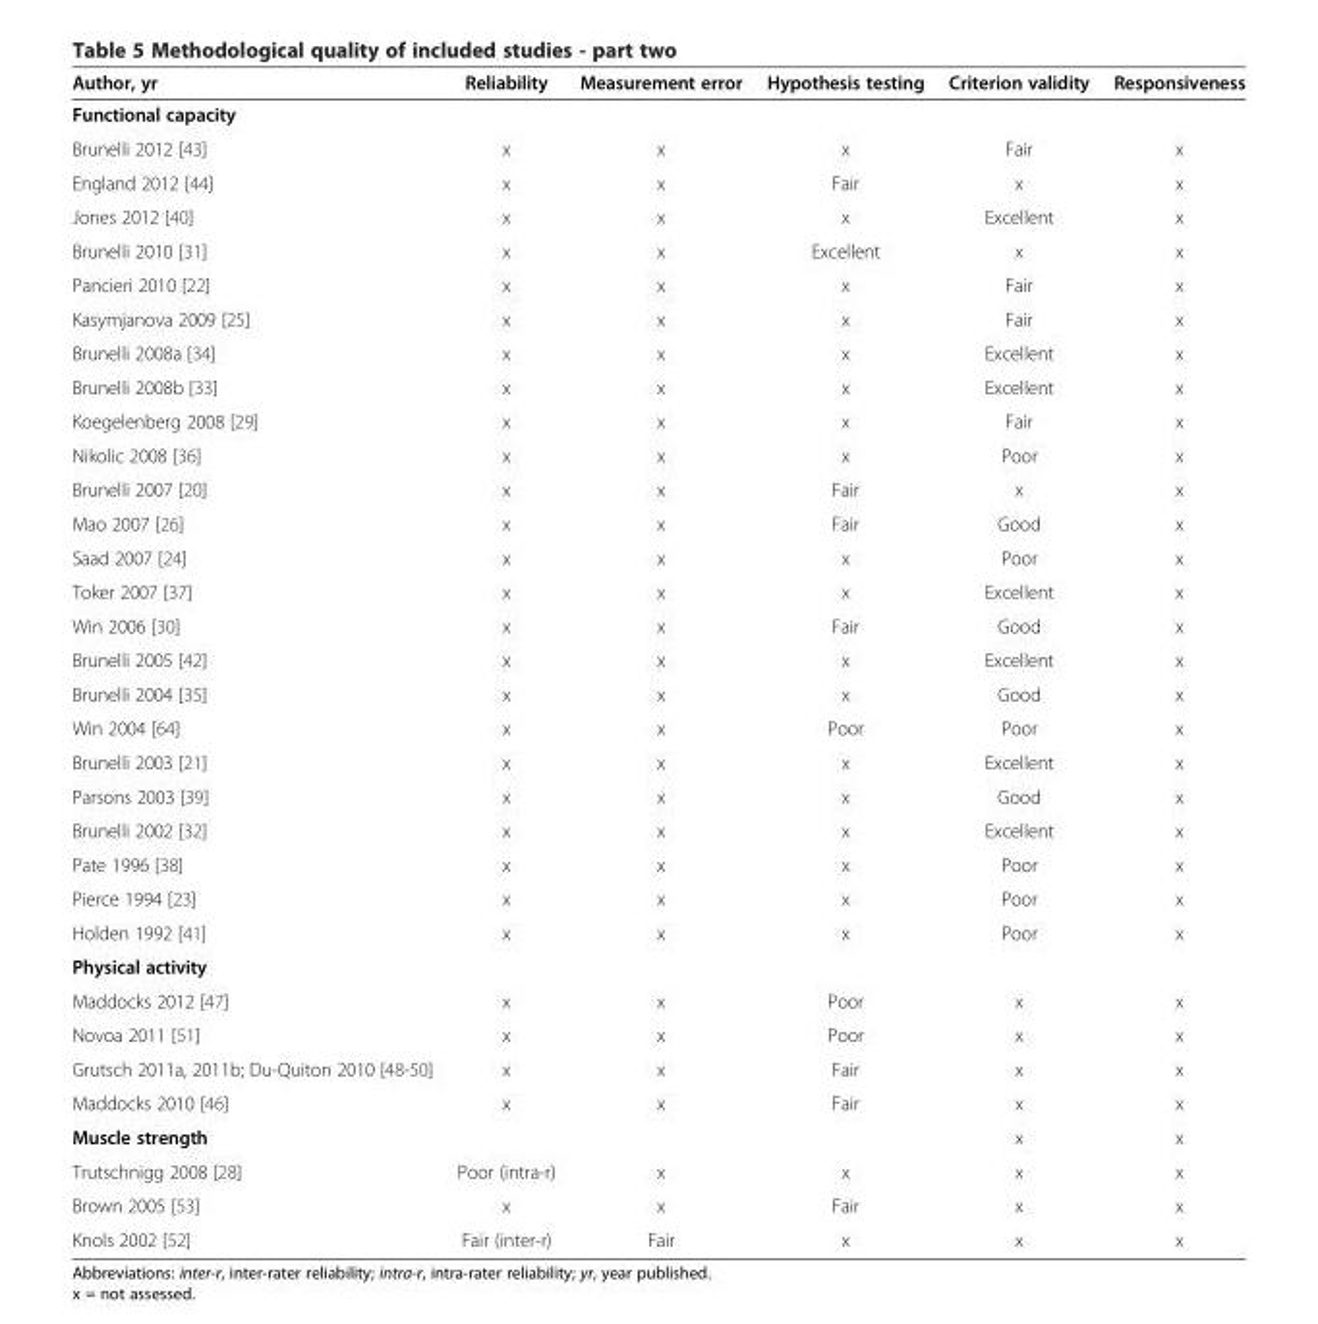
<table><thead><tr><td>Author, yr</td><td>Reliability</td><td>Measurement error</td><td>Hypothesis testing</td><td>Criterion validity</td><td>Responsiveness</td></tr></thead><tbody><tr><td colspan="6">Functional capacity</td></tr><tr><td>Brunelli 2012 [43]</td><td>x</td><td>x</td><td>x</td><td>Fair</td><td>x</td></tr><tr><td>England 2012 [44]</td><td>x</td><td>x</td><td>Fair</td><td>x</td><td>x</td></tr><tr><td>Jones 2012 [40]</td><td>x</td><td>x</td><td>x</td><td>Excellent</td><td>x</td></tr><tr><td>Brunelli 2010 [31]</td><td>x</td><td>x</td><td>Excellent</td><td>x</td><td>x</td></tr><tr><td>Pancieri 2010 [22]</td><td>x</td><td>x</td><td>x</td><td>Fair</td><td>x</td></tr><tr><td>Kasymjanova 2009 [25]</td><td>x</td><td>x</td><td>x</td><td>Fair</td><td>x</td></tr><tr><td>Brunelli 2008a [34]</td><td>x</td><td>x</td><td>x</td><td>Excellent</td><td>x</td></tr><tr><td>Brunelli 2008b [33]</td><td>x</td><td>x</td><td>x</td><td>Excellent</td><td>x</td></tr><tr><td>Koegelenberg 2008 [29]</td><td>x</td><td>x</td><td>x</td><td>Fair</td><td>x</td></tr><tr><td>Nikolic 2008 [36]</td><td>x</td><td>x</td><td>x</td><td>Poor</td><td>x</td></tr><tr><td>Brunelli 2007 [20]</td><td>x</td><td>x</td><td>Fair</td><td>x</td><td>x</td></tr><tr><td>Mao 2007 [26]</td><td>x</td><td>x</td><td>Fair</td><td>Good</td><td>x</td></tr><tr><td>Saad 2007 [24]</td><td>x</td><td>x</td><td>x</td><td>Poor</td><td>x</td></tr><tr><td>Toker 2007 [37]</td><td>x</td><td>x</td><td>x</td><td>Excellent</td><td>x</td></tr><tr><td>Win 2006 [30]</td><td>x</td><td>x</td><td>Fair</td><td>Good</td><td>x</td></tr><tr><td>Brunelli 2005 [42]</td><td>x</td><td>x</td><td>x</td><td>Excellent</td><td>x</td></tr><tr><td>Brunelli 2004 [35]</td><td>x</td><td>x</td><td>x</td><td>Good</td><td>x</td></tr><tr><td>Win 2004 [64]</td><td>x</td><td>x</td><td>Poor</td><td>Poor</td><td>x</td></tr><tr><td>Brunelli 2003 [21]</td><td>x</td><td>x</td><td>x</td><td>Excellent</td><td>x</td></tr><tr><td>Parsons 2003 [39]</td><td>x</td><td>x</td><td>x</td><td>Good</td><td>x</td></tr><tr><td>Brunelli 2002 [32]</td><td>x</td><td>x</td><td>x</td><td>Excellent</td><td>x</td></tr><tr><td>Pate 1996 [38]</td><td>x</td><td>x</td><td>x</td><td>Poor</td><td>x</td></tr><tr><td>Pierce 1994 [23]</td><td>x</td><td>x</td><td>x</td><td>Poor</td><td>x</td></tr><tr><td>Holden 1992 [41]</td><td>x</td><td>x</td><td>x</td><td>Poor</td><td>x</td></tr><tr><td colspan="6">Physical activity</td></tr><tr><td>Maddocks 2012 [47]</td><td>x</td><td>x</td><td>Poor</td><td>x</td><td>x</td></tr><tr><td>Novoa 2011 [51]</td><td>x</td><td>x</td><td>Poor</td><td>x</td><td>x</td></tr><tr><td>Grutsch 2011a, 2011b; Du-Quiton 2010 [48-50]</td><td>x</td><td>x</td><td>Fair</td><td>x</td><td>x</td></tr><tr><td>Maddocks 2010 [46]</td><td>x</td><td>x</td><td>Fair</td><td>x</td><td>x</td></tr><tr><td>Muscle strength</td><td></td><td></td><td></td><td>x</td><td>x</td></tr><tr><td>Trutschnigg 2008 [28]</td><td>Poor (intra-r)</td><td>x</td><td>x</td><td>x</td><td>x</td></tr><tr><td>Brown 2005 [53]</td><td>x</td><td>x</td><td>Fair</td><td>x</td><td>x</td></tr><tr><td>Knols 2002 [52]</td><td>Fair (inter-r)</td><td>Fair</td><td>x</td><td>x</td><td>x</td></tr></tbody></table>